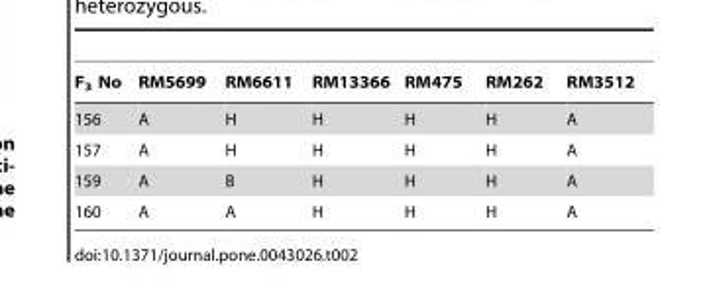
<table><thead><tr><td>F<sub>3</sub> No</td><td>RM5699</td><td>RM6611</td><td>RM13366</td><td>RM475</td><td>RM262</td><td>RM3512</td></tr></thead><tbody><tr><td>156</td><td>A</td><td>H</td><td>H</td><td>H</td><td>H</td><td>A</td></tr><tr><td>157</td><td>A</td><td>H</td><td>H</td><td>H</td><td>H</td><td>A</td></tr><tr><td>159</td><td>A</td><td>B</td><td>H</td><td>H</td><td>H</td><td>A</td></tr><tr><td>160</td><td>A</td><td>A</td><td>H</td><td>H</td><td>H</td><td>A</td></tr></tbody></table>